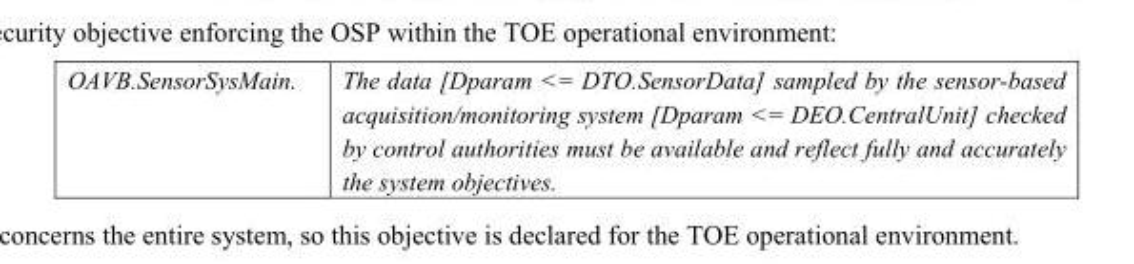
<table><tbody><tr><td>OAVB.SensorSysMain.</td><td>The data [Dparam &lt;= DTO.SensorData] sampled by the sensor-based acquisition/monitoring system [Dparam &lt;= DEO.CentralUnit] checked by control authorities must be available and reflect fully and accurately the system objectives.</td></tr></tbody></table>